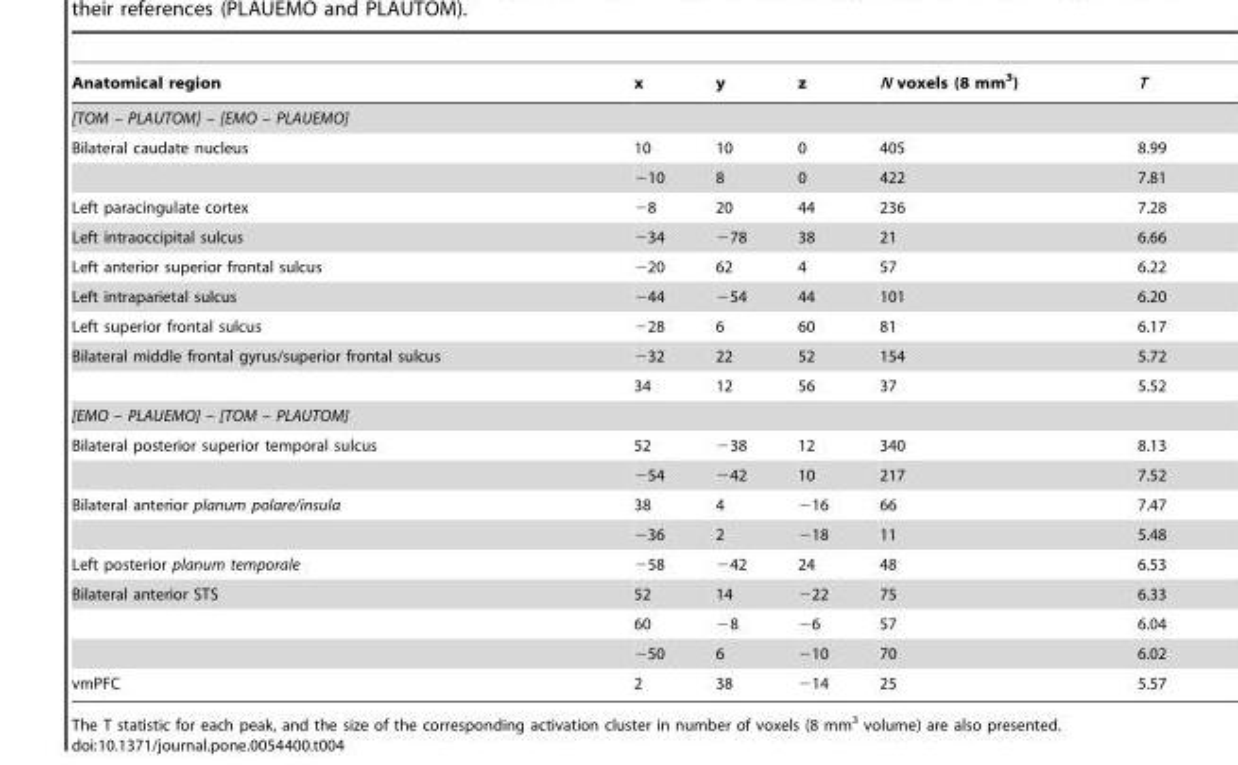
<table><thead><tr><td>Anatomical region</td><td>x</td><td>y</td><td>z</td><td>N voxels (8 mm<sup>3</sup>)</td><td>T</td></tr></thead><tbody><tr><td colspan="6">[TOM – PLAUTOM] – [EMO – PLAUEMO]</td></tr><tr><td rowspan="2">Bilateral caudate nucleus</td><td>10</td><td>10</td><td>0</td><td>405</td><td>8.99</td></tr><tr><td>−10</td><td>8</td><td>0</td><td>422</td><td>7.81</td></tr><tr><td>Left paracingulate cortex</td><td>−8</td><td>20</td><td>44</td><td>236</td><td>7.28</td></tr><tr><td>Left intraoccipital sulcus</td><td>−34</td><td>−78</td><td>38</td><td>21</td><td>6.66</td></tr><tr><td>Left anterior superior frontal sulcus</td><td>−20</td><td>62</td><td>4</td><td>57</td><td>6.22</td></tr><tr><td>Left intraparietal sulcus</td><td>−44</td><td>−54</td><td>44</td><td>101</td><td>6.20</td></tr><tr><td>Left superior frontal sulcus</td><td>−28</td><td>6</td><td>60</td><td>81</td><td>6.17</td></tr><tr><td rowspan="2">Bilateral middle frontal gyrus/superior frontal sulcus</td><td>−32</td><td>22</td><td>52</td><td>154</td><td>5.72</td></tr><tr><td>34</td><td>12</td><td>56</td><td>37</td><td>5.52</td></tr><tr><td colspan="6">[EMO – PLAUEMO] – [TOM – PLAUTOM]</td></tr><tr><td rowspan="2">Bilateral posterior superior temporal sulcus</td><td>52</td><td>−38</td><td>12</td><td>340</td><td>8.13</td></tr><tr><td>−54</td><td>−42</td><td>10</td><td>217</td><td>7.52</td></tr><tr><td rowspan="2">Bilateral anterior planum polare/insula</td><td>38</td><td>4</td><td>−16</td><td>66</td><td>7.47</td></tr><tr><td>−36</td><td>2</td><td>−18</td><td>11</td><td>5.48</td></tr><tr><td>Left posterior planum temporale</td><td>−58</td><td>−42</td><td>24</td><td>48</td><td>6.53</td></tr><tr><td rowspan="3">Bilateral anterior STS</td><td>52</td><td>14</td><td>−22</td><td>75</td><td>6.33</td></tr><tr><td>60</td><td>−8</td><td>−6</td><td>57</td><td>6.04</td></tr><tr><td>−50</td><td>6</td><td>−10</td><td>70</td><td>6.02</td></tr><tr><td>vmPFC</td><td>2</td><td>38</td><td>−14</td><td>25</td><td>5.57</td></tr></tbody></table>